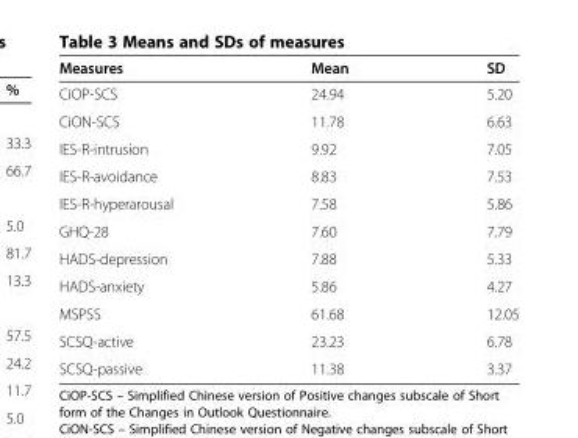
<table><thead><tr><td>Measures</td><td>Mean</td><td>SD</td></tr></thead><tbody><tr><td>CiOP-SCS</td><td>24.94</td><td>5.20</td></tr><tr><td>CiON-SCS</td><td>11.78</td><td>6.63</td></tr><tr><td>IES-R-intrusion</td><td>9.92</td><td>7.05</td></tr><tr><td>IES-R-avoidance</td><td>8.83</td><td>7.53</td></tr><tr><td>IES-R-hyperarousal</td><td>7.58</td><td>5.86</td></tr><tr><td>GHQ-28</td><td>7.60</td><td>7.79</td></tr><tr><td>HADS-depression</td><td>7.88</td><td>5.33</td></tr><tr><td>HADS-anxiety</td><td>5.86</td><td>4.27</td></tr><tr><td>MSPSS</td><td>61.68</td><td>12.05</td></tr><tr><td>SCSQ-active</td><td>23.23</td><td>6.78</td></tr><tr><td>SCSQ-passive</td><td>11.38</td><td>3.37</td></tr></tbody></table>